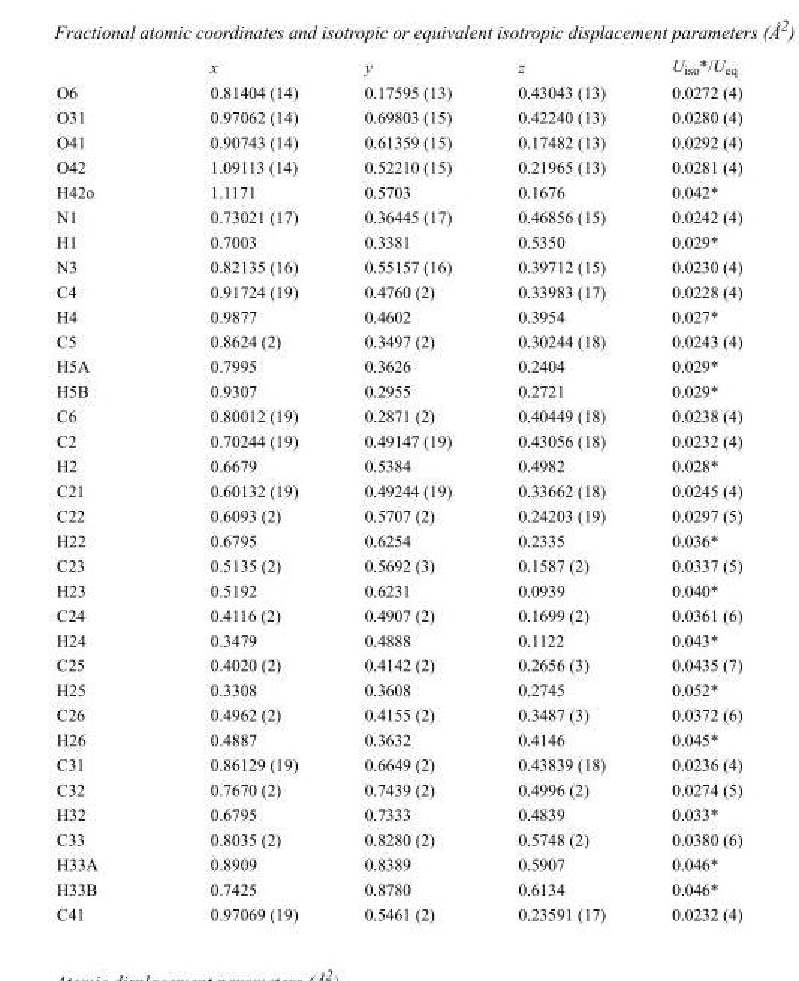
<table><thead><tr><td></td><td>x</td><td>y</td><td>z</td><td>U<sub>iso</sub>*/U<sub>eq</sub></td></tr></thead><tbody><tr><td>O6</td><td>0.81404 (14)</td><td>0.17595 (13)</td><td>0.43043 (13)</td><td>0.0272 (4)</td></tr><tr><td>O31</td><td>0.97062 (14)</td><td>0.69803 (15)</td><td>0.42240 (13)</td><td>0.0280 (4)</td></tr><tr><td>O41</td><td>0.90743 (14)</td><td>0.61359 (15)</td><td>0.17482 (13)</td><td>0.0292 (4)</td></tr><tr><td>O42</td><td>1.09113 (14)</td><td>0.52210 (15)</td><td>0.21965 (13)</td><td>0.0281 (4)</td></tr><tr><td>H42o</td><td>1.1171</td><td>0.5703</td><td>0.1676</td><td>0.042*</td></tr><tr><td>N1</td><td>0.73021 (17)</td><td>0.36445 (17)</td><td>0.46856 (15)</td><td>0.0242 (4)</td></tr><tr><td>H1</td><td>0.7003</td><td>0.3381</td><td>0.5350</td><td>0.029*</td></tr><tr><td>N3</td><td>0.82135 (16)</td><td>0.55157 (16)</td><td>0.39712 (15)</td><td>0.0230 (4)</td></tr><tr><td>C4</td><td>0.91724 (19)</td><td>0.4760 (2)</td><td>0.33983 (17)</td><td>0.0228 (4)</td></tr><tr><td>H4</td><td>0.9877</td><td>0.4602</td><td>0.3954</td><td>0.027*</td></tr><tr><td>C5</td><td>0.8624 (2)</td><td>0.3497 (2)</td><td>0.30244 (18)</td><td>0.0243 (4)</td></tr><tr><td>H5A</td><td>0.7995</td><td>0.3626</td><td>0.2404</td><td>0.029*</td></tr><tr><td>H5B</td><td>0.9307</td><td>0.2955</td><td>0.2721</td><td>0.029*</td></tr><tr><td>C6</td><td>0.80012 (19)</td><td>0.2871 (2)</td><td>0.40449 (18)</td><td>0.0238 (4)</td></tr><tr><td>C2</td><td>0.70244 (19)</td><td>0.49147 (19)</td><td>0.43056 (18)</td><td>0.0232 (4)</td></tr><tr><td>H2</td><td>0.6679</td><td>0.5384</td><td>0.4982</td><td>0.028*</td></tr><tr><td>C21</td><td>0.60132 (19)</td><td>0.49244 (19)</td><td>0.33662 (18)</td><td>0.0245 (4)</td></tr><tr><td>C22</td><td>0.6093 (2)</td><td>0.5707 (2)</td><td>0.24203 (19)</td><td>0.0297 (5)</td></tr><tr><td>H22</td><td>0.6795</td><td>0.6254</td><td>0.2335</td><td>0.036*</td></tr><tr><td>C23</td><td>0.5135 (2)</td><td>0.5692 (3)</td><td>0.1587 (2)</td><td>0.0337 (5)</td></tr><tr><td>H23</td><td>0.5192</td><td>0.6231</td><td>0.0939</td><td>0.040*</td></tr><tr><td>C24</td><td>0.4116 (2)</td><td>0.4907 (2)</td><td>0.1699 (2)</td><td>0.0361 (6)</td></tr><tr><td>H24</td><td>0.3479</td><td>0.4888</td><td>0.1122</td><td>0.043*</td></tr><tr><td>C25</td><td>0.4020 (2)</td><td>0.4142 (2)</td><td>0.2656 (3)</td><td>0.0435 (7)</td></tr><tr><td>H25</td><td>0.3308</td><td>0.3608</td><td>0.2745</td><td>0.052*</td></tr><tr><td>C26</td><td>0.4962 (2)</td><td>0.4155 (2)</td><td>0.3487 (3)</td><td>0.0372 (6)</td></tr><tr><td>H26</td><td>0.4887</td><td>0.3632</td><td>0.4146</td><td>0.045*</td></tr><tr><td>C31</td><td>0.86129 (19)</td><td>0.6649 (2)</td><td>0.43839 (18)</td><td>0.0236 (4)</td></tr><tr><td>C32</td><td>0.7670 (2)</td><td>0.7439 (2)</td><td>0.4996 (2)</td><td>0.0274 (5)</td></tr><tr><td>H32</td><td>0.6795</td><td>0.7333</td><td>0.4839</td><td>0.033*</td></tr><tr><td>C33</td><td>0.8035 (2)</td><td>0.8280 (2)</td><td>0.5748 (2)</td><td>0.0380 (6)</td></tr><tr><td>H33A</td><td>0.8909</td><td>0.8389</td><td>0.5907</td><td>0.046*</td></tr><tr><td>H33B</td><td>0.7425</td><td>0.8780</td><td>0.6134</td><td>0.046*</td></tr><tr><td>C41</td><td>0.97069 (19)</td><td>0.5461 (2)</td><td>0.23591 (17)</td><td>0.0232 (4)</td></tr></tbody></table>